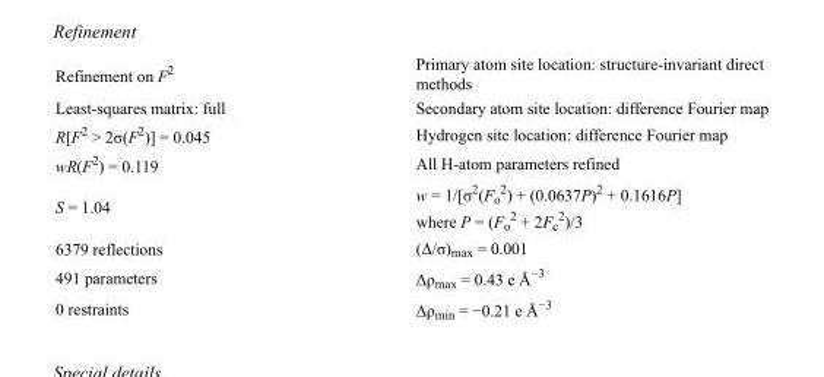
<table><tbody><tr><td>Refinement on F<sup>2</sup></td><td>Primary atom site location: structure-invariant direct methods</td></tr><tr><td>Least-squares matrix: full</td><td>Secondary atom site location: difference Fourier map</td></tr><tr><td>R[F<sup>2</sup> &gt; 2σ(F<sup>2</sup>)] = 0.045</td><td>Hydrogen site location: difference Fourier map</td></tr><tr><td>wR(F<sup>2</sup>) = 0.119</td><td>All H-atom parameters refined</td></tr><tr><td>S = 1.04</td><td>w = 1/[σ<sup>2</sup>(F<sub>o</sub> <sup>2</sup>) + (0.0637P)<sup>2</sup> + 0.1616P] where P = (F<sub>o</sub> <sup>2</sup> + 2F<sub>c</sub> <sup>2</sup>)/3</td></tr><tr><td>6379 reflections</td><td>(Δ/σ)<sub>max</sub> = 0.001</td></tr><tr><td>491 parameters</td><td>Δρ<sub>max</sub> = 0.43 e Å<sup>−3</sup></td></tr><tr><td>0 restraints</td><td>Δρ<sub>min</sub> = −0.21 e Å<sup>−3</sup></td></tr></tbody></table>